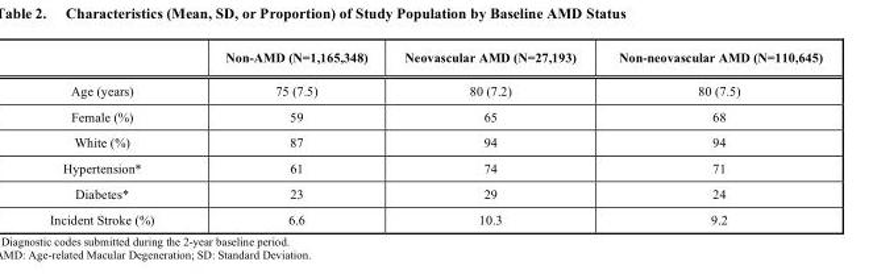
<table><thead><tr><td></td><td>Non-AMD (N=1,165,348)</td><td>Neovascular AMD (N=27,193)</td><td>Non-neovascular AMD (N=110,645)</td></tr></thead><tbody><tr><td>Age (years)</td><td>75 (7.5)</td><td>80 (7.2)</td><td>80 (7.5)</td></tr><tr><td>Female (%)</td><td>59</td><td>65</td><td>68</td></tr><tr><td>White (%)</td><td>87</td><td>94</td><td>94</td></tr><tr><td>Hypertension*</td><td>61</td><td>74</td><td>71</td></tr><tr><td>Diabetes*</td><td>23</td><td>29</td><td>24</td></tr><tr><td>Incident Stroke (%)</td><td>6.6</td><td>10.3</td><td>9.2</td></tr></tbody></table>